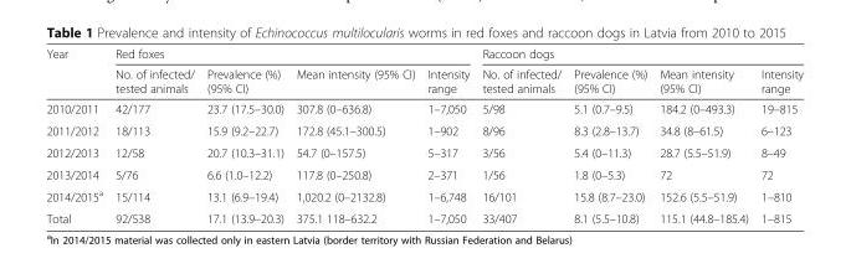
<table><thead><tr><td rowspan="2">Year</td><td colspan="4">Red foxes</td><td colspan="4">Raccoon dogs</td></tr><tr><td>No. of infected/ tested animals</td><td>Prevalence (%) (95% CI)</td><td>Mean intensity (95% CI)</td><td>Intensity range</td><td>No. of infected/ tested animals</td><td>Prevalence (%) (95% CI)</td><td>Mean intensity (95% CI)</td><td>Intensity range</td></tr></thead><tbody><tr><td>2010/2011</td><td>42/177</td><td>23.7 (17.5–30.0)</td><td>307.8 (0–636.8)</td><td>1–7,050</td><td>5/98</td><td>5.1 (0.7–9.5)</td><td>184.2 (0–493.3)</td><td>19–815</td></tr><tr><td>2011/2012</td><td>18/113</td><td>15.9 (9.2–22.7)</td><td>172.8 (45.1–300.5)</td><td>1–902</td><td>8/96</td><td>8.3 (2.8–13.7)</td><td>34.8 (8–61.5)</td><td>6–123</td></tr><tr><td>2012/2013</td><td>12/58</td><td>20.7 (10.3–31.1)</td><td>54.7 (0–157.5)</td><td>5–317</td><td>3/56</td><td>5.4 (0–11.3)</td><td>28.7 (5.5–51.9)</td><td>8–49</td></tr><tr><td>2013/2014</td><td>5/76</td><td>6.6 (1.0–12.2)</td><td>117.8 (0–250.8)</td><td>2–371</td><td>1/56</td><td>1.8 (0–5.3)</td><td>72</td><td>72</td></tr><tr><td>2014/2015<sup>a</sup></td><td>15/114</td><td>13.1 (6.9–19.4)</td><td>1,020.2 (0–2132.8)</td><td>1–6,748</td><td>16/101</td><td>15.8 (8.7–23.0)</td><td>152.6 (5.5–51.9)</td><td>1–810</td></tr><tr><td>Total</td><td>92/538</td><td>17.1 (13.9–20.3)</td><td>375.1 118–632.2</td><td>1–7,050</td><td>33/407</td><td>8.1 (5.5–10.8)</td><td>115.1 (44.8–185.4)</td><td>1–815</td></tr></tbody></table>